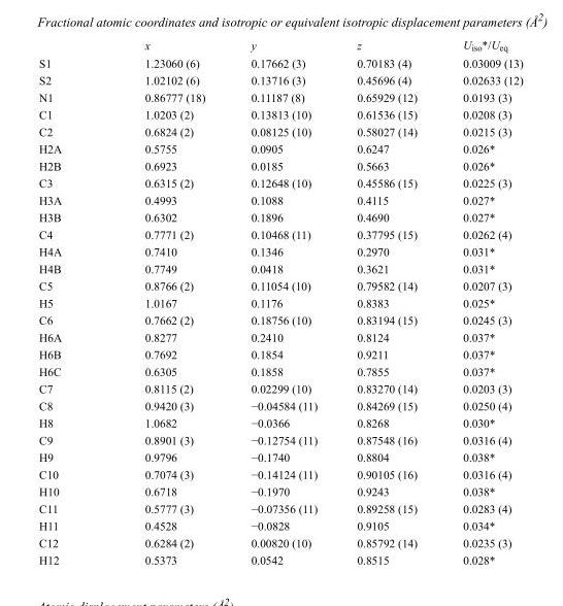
<table><thead><tr><td></td><td>x</td><td>y</td><td>z</td><td>U<sub>iso</sub>*/U<sub>eq</sub></td></tr></thead><tbody><tr><td>S1</td><td>1.23060 (6)</td><td>0.17662 (3)</td><td>0.70183 (4)</td><td>0.03009 (13)</td></tr><tr><td>S2</td><td>1.02102 (6)</td><td>0.13716 (3)</td><td>0.45696 (4)</td><td>0.02633 (12)</td></tr><tr><td>N1</td><td>0.86777 (18)</td><td>0.11187 (8)</td><td>0.65929 (12)</td><td>0.0193 (3)</td></tr><tr><td>C1</td><td>1.0203 (2)</td><td>0.13813 (10)</td><td>0.61536 (15)</td><td>0.0208 (3)</td></tr><tr><td>C2</td><td>0.6824 (2)</td><td>0.08125 (10)</td><td>0.58027 (14)</td><td>0.0215 (3)</td></tr><tr><td>H2A</td><td>0.5755</td><td>0.0905</td><td>0.6247</td><td>0.026*</td></tr><tr><td>H2B</td><td>0.6923</td><td>0.0185</td><td>0.5663</td><td>0.026*</td></tr><tr><td>C3</td><td>0.6315 (2)</td><td>0.12648 (10)</td><td>0.45586 (15)</td><td>0.0225 (3)</td></tr><tr><td>H3A</td><td>0.4993</td><td>0.1088</td><td>0.4115</td><td>0.027*</td></tr><tr><td>H3B</td><td>0.6302</td><td>0.1896</td><td>0.4690</td><td>0.027*</td></tr><tr><td>C4</td><td>0.7771 (2)</td><td>0.10468 (11)</td><td>0.37795 (15)</td><td>0.0262 (4)</td></tr><tr><td>H4A</td><td>0.7410</td><td>0.1346</td><td>0.2970</td><td>0.031*</td></tr><tr><td>H4B</td><td>0.7749</td><td>0.0418</td><td>0.3621</td><td>0.031*</td></tr><tr><td>C5</td><td>0.8766 (2)</td><td>0.11054 (10)</td><td>0.79582 (14)</td><td>0.0207 (3)</td></tr><tr><td>H5</td><td>1.0167</td><td>0.1176</td><td>0.8383</td><td>0.025*</td></tr><tr><td>C6</td><td>0.7662 (2)</td><td>0.18756 (10)</td><td>0.83194 (15)</td><td>0.0245 (3)</td></tr><tr><td>H6A</td><td>0.8277</td><td>0.2410</td><td>0.8124</td><td>0.037*</td></tr><tr><td>H6B</td><td>0.7692</td><td>0.1854</td><td>0.9211</td><td>0.037*</td></tr><tr><td>H6C</td><td>0.6305</td><td>0.1858</td><td>0.7855</td><td>0.037*</td></tr><tr><td>C7</td><td>0.8115 (2)</td><td>0.02299 (10)</td><td>0.83270 (14)</td><td>0.0203 (3)</td></tr><tr><td>C8</td><td>0.9420 (3)</td><td>−0.04584 (11)</td><td>0.84269 (15)</td><td>0.0250 (4)</td></tr><tr><td>H8</td><td>1.0682</td><td>−0.0366</td><td>0.8268</td><td>0.030*</td></tr><tr><td>C9</td><td>0.8901 (3)</td><td>−0.12754 (11)</td><td>0.87548 (16)</td><td>0.0316 (4)</td></tr><tr><td>H9</td><td>0.9796</td><td>−0.1740</td><td>0.8804</td><td>0.038*</td></tr><tr><td>C10</td><td>0.7074 (3)</td><td>−0.14124 (11)</td><td>0.90105 (16)</td><td>0.0316 (4)</td></tr><tr><td>H10</td><td>0.6718</td><td>−0.1970</td><td>0.9243</td><td>0.038*</td></tr><tr><td>C11</td><td>0.5777 (3)</td><td>−0.07356 (11)</td><td>0.89258 (15)</td><td>0.0283 (4)</td></tr><tr><td>H11</td><td>0.4528</td><td>−0.0828</td><td>0.9105</td><td>0.034*</td></tr><tr><td>C12</td><td>0.6284 (2)</td><td>0.00820 (10)</td><td>0.85792 (14)</td><td>0.0235 (3)</td></tr><tr><td>H12</td><td>0.5373</td><td>0.0542</td><td>0.8515</td><td>0.028*</td></tr></tbody></table>